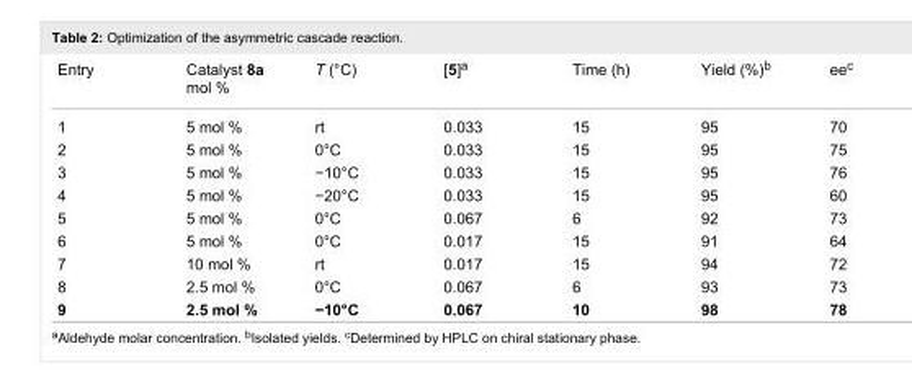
<table><tbody><tr><td>Entry</td><td>Catalyst 8a mol %</td><td>T (°C)</td><td>[5]<sup>a</sup></td><td>Time (h)</td><td>Yield (%)<sup>b</sup></td><td>ee<sup>c</sup></td></tr><tr><td>1</td><td>5 mol %</td><td>rt</td><td>0.033</td><td>15</td><td>95</td><td>70</td></tr><tr><td>2</td><td>5 mol %</td><td>0°C</td><td>0.033</td><td>15</td><td>95</td><td>75</td></tr><tr><td>3</td><td>5 mol %</td><td>−10°C</td><td>0.033</td><td>15</td><td>95</td><td>76</td></tr><tr><td>4</td><td>5 mol %</td><td>−20°C</td><td>0.033</td><td>15</td><td>95</td><td>60</td></tr><tr><td>5</td><td>5 mol %</td><td>0°C</td><td>0.067</td><td>6</td><td>92</td><td>73</td></tr><tr><td>6</td><td>5 mol %</td><td>0°C</td><td>0.017</td><td>15</td><td>91</td><td>64</td></tr><tr><td>7</td><td>10 mol %</td><td>rt</td><td>0.017</td><td>15</td><td>94</td><td>72</td></tr><tr><td>8</td><td>2.5 mol %</td><td>0°C</td><td>0.067</td><td>6</td><td>93</td><td>73</td></tr><tr><td>9</td><td>2.5 mol %</td><td>−10°C</td><td>0.067</td><td>10</td><td>98</td><td>78</td></tr></tbody></table>